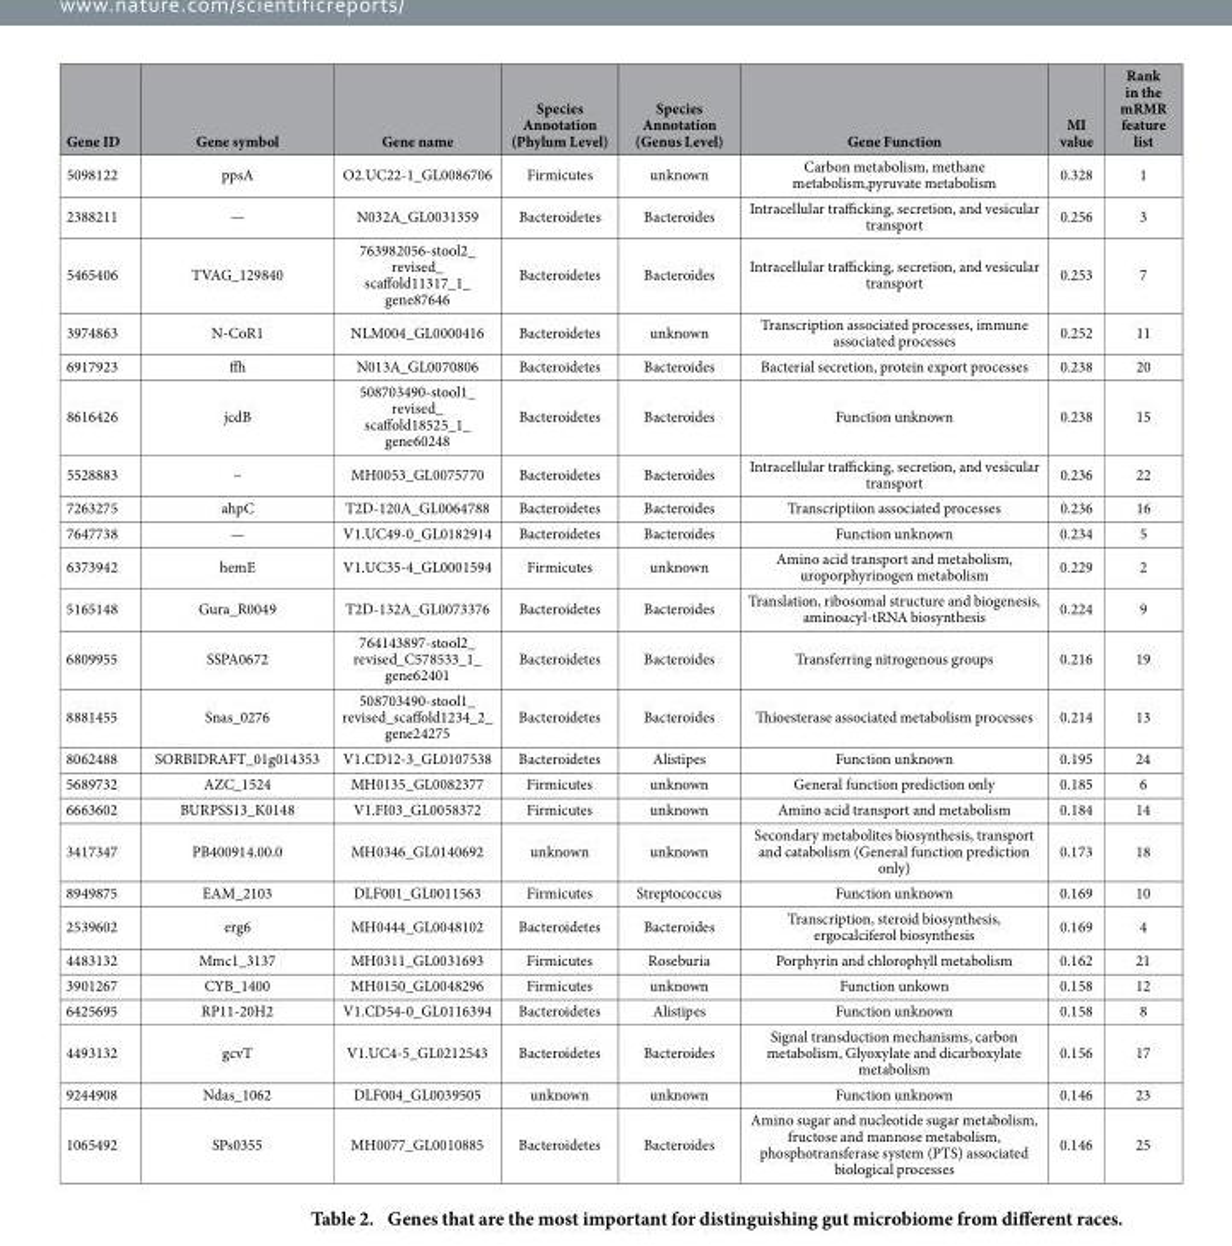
<table><thead><tr><td>Gene ID</td><td>Gene symbol</td><td>Gene name</td><td>Species Annotation (Phylum Level)</td><td>Species Annotation (Genus Level)</td><td>Gene Function</td><td>MI value</td><td>Rank in the mRMR feature list</td></tr></thead><tbody><tr><td>5098122</td><td>ppsA</td><td>O2.UC22-1_GL0086706</td><td>Firmicutes</td><td>unknown</td><td>Carbon metabolism, methane metabolism,pyruvate metabolism</td><td>0.328</td><td>1</td></tr><tr><td>2388211</td><td>—</td><td>N032A_GL0031359</td><td>Bacteroidetes</td><td>Bacteroides</td><td>Intracellular trafficking, secretion, and vesicular transport</td><td>0.256</td><td>3</td></tr><tr><td>5465406</td><td>TVAG_129840</td><td>763982056-stool2_ revised_ scaffold11317_1_ gene87646</td><td>Bacteroidetes</td><td>Bacteroides</td><td>Intracellular trafficking, secretion, and vesicular transport</td><td>0.253</td><td>7</td></tr><tr><td>3974863</td><td>N-CoR1</td><td>NLM004_GL0000416</td><td>Bacteroidetes</td><td>unknown</td><td>Transcription associated processes, immune associated processes</td><td>0.252</td><td>11</td></tr><tr><td>6917923</td><td>ffh</td><td>N013A_GL0070806</td><td>Bacteroidetes</td><td>Bacteroides</td><td>Bacterial secretion, protein export processes</td><td>0.238</td><td>20</td></tr><tr><td>8616426</td><td>jcdB</td><td>508703490-stool1_ revised_ scaffold18525_1_ gene60248</td><td>Bacteroidetes</td><td>Bacteroides</td><td>Function unknown</td><td>0.238</td><td>15</td></tr><tr><td>5528883</td><td>–</td><td>MH0053_GL0075770</td><td>Bacteroidetes</td><td>Bacteroides</td><td>Intracellular trafficking, secretion, and vesicular transport</td><td>0.236</td><td>22</td></tr><tr><td>7263275</td><td>ahpC</td><td>T2D-120A_GL0064788</td><td>Bacteroidetes</td><td>Bacteroides</td><td>Transcriptiion associated processes</td><td>0.236</td><td>16</td></tr><tr><td>7647738</td><td>—</td><td>V1.UC49-0_GL0182914</td><td>Bacteroidetes</td><td>Bacteroides</td><td>Function unknown</td><td>0.234</td><td>5</td></tr><tr><td>6373942</td><td>hemE</td><td>V1.UC35-4_GL0001594</td><td>Firmicutes</td><td>unknown</td><td>Amino acid transport and metabolism, uroporphyrinogen metabolism</td><td>0.229</td><td>2</td></tr><tr><td>5165148</td><td>Gura_R0049</td><td>T2D-132A_GL0073376</td><td>Bacteroidetes</td><td>Bacteroides</td><td>Translation, ribosomal structure and biogenesis, aminoacyl-tRNA biosynthesis</td><td>0.224</td><td>9</td></tr><tr><td>6809955</td><td>SSPA0672</td><td>764143897-stool2_ revised_C578533_1_ gene62401</td><td>Bacteroidetes</td><td>Bacteroides</td><td>Transferring nitrogenous groups</td><td>0.216</td><td>19</td></tr><tr><td>8881455</td><td>Snas_0276</td><td>508703490-stool1_ revised_scaffold1234_2_ gene24275</td><td>Bacteroidetes</td><td>Bacteroides</td><td>Thioesterase associated metabolism processes</td><td>0.214</td><td>13</td></tr><tr><td>8062488</td><td>SORBIDRAFT_01g014353</td><td>V1.CD12-3_GL0107538</td><td>Bacteroidetes</td><td>Alistipes</td><td>Function unknown</td><td>0.195</td><td>24</td></tr><tr><td>5689732</td><td>AZC_1524</td><td>MH0135_GL0082377</td><td>Firmicutes</td><td>unknown</td><td>General function prediction only</td><td>0.185</td><td>6</td></tr><tr><td>6663602</td><td>BURPSS13_K0148</td><td>V1.FI03_GL0058372</td><td>Firmicutes</td><td>unknown</td><td>Amino acid transport and metabolism</td><td>0.184</td><td>14</td></tr><tr><td>3417347</td><td>PB400914.00.0</td><td>MH0346_GL0140692</td><td>unknown</td><td>unknown</td><td>Secondary metabolites biosynthesis, transport and catabolism (General function prediction only)</td><td>0.173</td><td>18</td></tr><tr><td>8949875</td><td>EAM_2103</td><td>DLF001_GL0011563</td><td>Firmicutes</td><td>Streptococcus</td><td>Function unknown</td><td>0.169</td><td>10</td></tr><tr><td>2539602</td><td>erg6</td><td>MH0444_GL0048102</td><td>Bacteroidetes</td><td>Bacteroides</td><td>Transcription, steroid biosynthesis, ergocalciferol biosynthesis</td><td>0.169</td><td>4</td></tr><tr><td>4483132</td><td>Mmc1_3137</td><td>MH0311_GL0031693</td><td>Firmicutes</td><td>Roseburia</td><td>Porphyrin and chlorophyll metabolism</td><td>0.162</td><td>21</td></tr><tr><td>3901267</td><td>CYB_1400</td><td>MH0150_GL0048296</td><td>Firmicutes</td><td>unknown</td><td>Function unkown</td><td>0.158</td><td>12</td></tr><tr><td>6425695</td><td>RP11-20H2</td><td>V1.CD54-0_GL0116394</td><td>Bacteroidetes</td><td>Alistipes</td><td>Function unknown</td><td>0.158</td><td>8</td></tr><tr><td>4493132</td><td>gcvT</td><td>V1.UC4-5_GL0212543</td><td>Bacteroidetes</td><td>Bacteroides</td><td>Signal transduction mechanisms, carbon metabolism, Glyoxylate and dicarboxylate metabolism</td><td>0.156</td><td>17</td></tr><tr><td>9244908</td><td>Ndas_1062</td><td>DLF004_GL0039505</td><td>unknown</td><td>unknown</td><td>Function unknown</td><td>0.146</td><td>23</td></tr><tr><td>1065492</td><td>SPs0355</td><td>MH0077_GL0010885</td><td>Bacteroidetes</td><td>Bacteroides</td><td>Amino sugar and nucleotide sugar metabolism, fructose and mannose metabolism, phosphotransferase system (PTS) associated biological processes</td><td>0.146</td><td>25</td></tr></tbody></table>